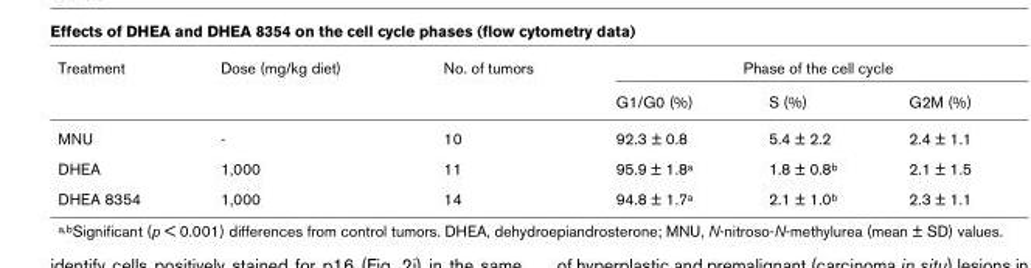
<table><thead><tr><td rowspan="2">Treatment</td><td rowspan="2">Dose (mg/kg diet)</td><td rowspan="2">No. of tumors</td><td colspan="3">Phase of the cell cycle</td></tr><tr><td>G1/G0 (%)</td><td>S (%)</td><td>G2M (%)</td></tr></thead><tbody><tr><td>MNU</td><td>-</td><td>10</td><td>92.3 ± 0.8</td><td>5.4 ± 2.2</td><td>2.4 ± 1.1</td></tr><tr><td>DHEA</td><td>1,000</td><td>11</td><td>95.9 ± 1.8a</td><td>1.8 ± 0.8b</td><td>2.1 ± 1.5</td></tr><tr><td>DHEA 8354</td><td>1,000</td><td>14</td><td>94.8 ± 1.7a</td><td>2.1 ± 1.0b</td><td>2.3 ± 1.1</td></tr></tbody></table>